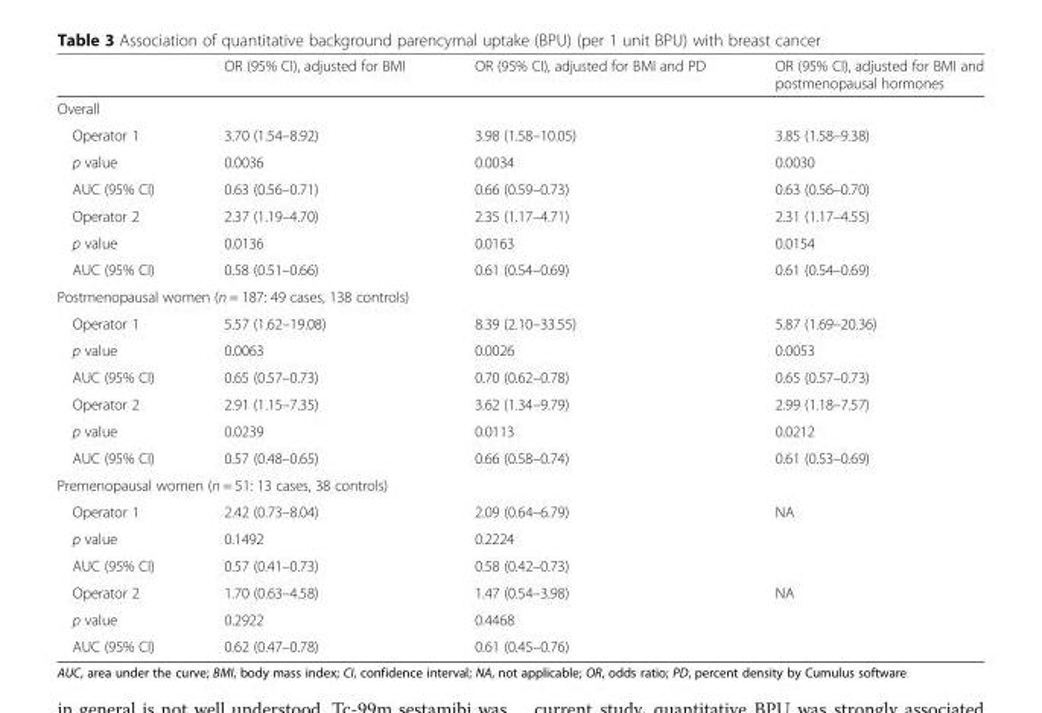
<table><thead><tr><td></td><td>OR (95% CI), adjusted for BMI</td><td>OR (95% CI), adjusted for BMI and PD</td><td>OR (95% CI), adjusted for BMI and postmenopausal hormones</td></tr></thead><tbody><tr><td colspan="4">Overall</td></tr><tr><td>Operator 1</td><td>3.70 (1.54–8.92)</td><td>3.98 (1.58–10.05)</td><td>3.85 (1.58–9.38)</td></tr><tr><td>p value</td><td>0.0036</td><td>0.0034</td><td>0.0030</td></tr><tr><td>AUC (95% CI)</td><td>0.63 (0.56–0.71)</td><td>0.66 (0.59–0.73)</td><td>0.63 (0.56–0.70)</td></tr><tr><td>Operator 2</td><td>2.37 (1.19–4.70)</td><td>2.35 (1.17–4.71)</td><td>2.31 (1.17–4.55)</td></tr><tr><td>p value</td><td>0.0136</td><td>0.0163</td><td>0.0154</td></tr><tr><td>AUC (95% CI)</td><td>0.58 (0.51–0.66)</td><td>0.61 (0.54–0.69)</td><td>0.61 (0.54–0.69)</td></tr><tr><td colspan="4">Postmenopausal women (n = 187: 49 cases, 138 controls)</td></tr><tr><td>Operator 1</td><td>5.57 (1.62–19.08)</td><td>8.39 (2.10–33.55)</td><td>5.87 (1.69–20.36)</td></tr><tr><td>p value</td><td>0.0063</td><td>0.0026</td><td>0.0053</td></tr><tr><td>AUC (95% CI)</td><td>0.65 (0.57–0.73)</td><td>0.70 (0.62–0.78)</td><td>0.65 (0.57–0.73)</td></tr><tr><td>Operator 2</td><td>2.91 (1.15–7.35)</td><td>3.62 (1.34–9.79)</td><td>2.99 (1.18–7.57)</td></tr><tr><td>p value</td><td>0.0239</td><td>0.0113</td><td>0.0212</td></tr><tr><td>AUC (95% CI)</td><td>0.57 (0.48–0.65)</td><td>0.66 (0.58–0.74)</td><td>0.61 (0.53–0.69)</td></tr><tr><td colspan="4">Premenopausal women (n = 51: 13 cases, 38 controls)</td></tr><tr><td>Operator 1</td><td>2.42 (0.73–8.04)</td><td>2.09 (0.64–6.79)</td><td>NA</td></tr><tr><td>p value</td><td>0.1492</td><td>0.2224</td><td rowspan="2"></td></tr><tr><td>AUC (95% CI)</td><td>0.57 (0.41–0.73)</td><td>0.58 (0.42–0.73)</td></tr><tr><td>Operator 2</td><td>1.70 (0.63–4.58)</td><td>1.47 (0.54–3.98)</td><td>NA</td></tr><tr><td>p value</td><td>0.2922</td><td>0.4468</td><td rowspan="2"></td></tr><tr><td>AUC (95% CI)</td><td>0.62 (0.47–0.78)</td><td>0.61 (0.45–0.76)</td></tr></tbody></table>